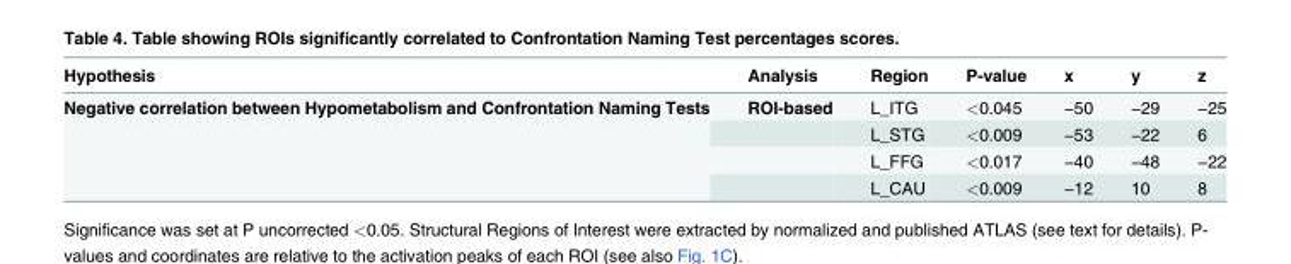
<table><thead><tr><td>Hypothesis</td><td>Analysis</td><td>Region</td><td>P-value</td><td>x</td><td>y</td><td>z</td></tr></thead><tbody><tr><td rowspan="4">Negative correlation between Hypometabolism and Confrontation Naming Tests</td><td>ROI-based</td><td>L_ITG</td><td>&lt;0.045</td><td>−50</td><td>−29</td><td>−25</td></tr><tr><td></td><td>L_STG</td><td>&lt;0.009</td><td>−53</td><td>−22</td><td>6</td></tr><tr><td></td><td>L_FFG</td><td>&lt;0.017</td><td>−40</td><td>−48</td><td>−22</td></tr><tr><td></td><td>L_CAU</td><td>&lt;0.009</td><td>−12</td><td>10</td><td>8</td></tr></tbody></table>